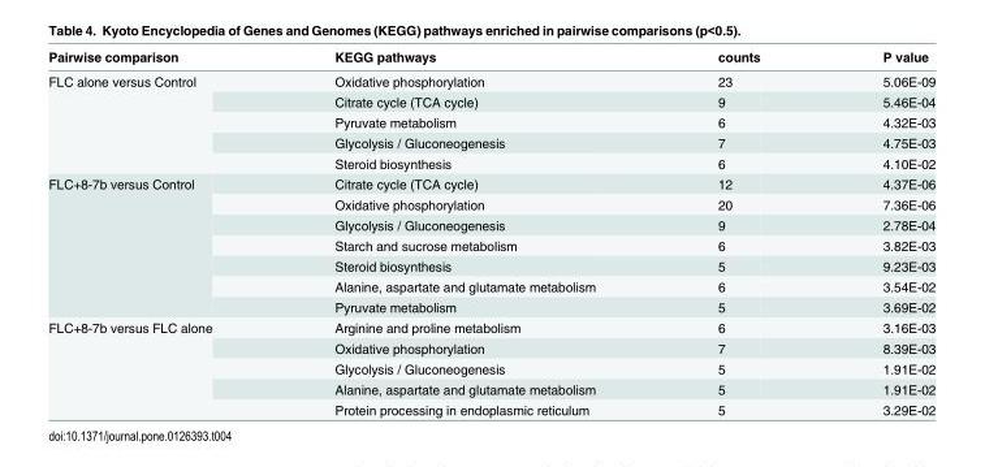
<table><thead><tr><td>Pairwise comparison</td><td>KEGG pathways</td><td>counts</td><td>P value</td></tr></thead><tbody><tr><td rowspan="5">FLC alone versus Control</td><td>Oxidative phosphorylation</td><td>23</td><td>5.06E-09</td></tr><tr><td>Citrate cycle (TCA cycle)</td><td>9</td><td>5.46E-04</td></tr><tr><td>Pyruvate metabolism</td><td>6</td><td>4.32E-03</td></tr><tr><td>Glycolysis / Gluconeogenesis</td><td>7</td><td>4.75E-03</td></tr><tr><td>Steroid biosynthesis</td><td>6</td><td>4.10E-02</td></tr><tr><td rowspan="7">FLC+8-7b versus Control</td><td>Citrate cycle (TCA cycle)</td><td>12</td><td>4.37E-06</td></tr><tr><td>Oxidative phosphorylation</td><td>20</td><td>7.36E-06</td></tr><tr><td>Glycolysis / Gluconeogenesis</td><td>9</td><td>2.78E-04</td></tr><tr><td>Starch and sucrose metabolism</td><td>6</td><td>3.82E-03</td></tr><tr><td>Steroid biosynthesis</td><td>5</td><td>9.23E-03</td></tr><tr><td>Alanine, aspartate and glutamate metabolism</td><td>6</td><td>3.54E-02</td></tr><tr><td>Pyruvate metabolism</td><td>5</td><td>3.69E-02</td></tr><tr><td rowspan="5">FLC+8-7b versus FLC alone</td><td>Arginine and proline metabolism</td><td>6</td><td>3.16E-03</td></tr><tr><td>Oxidative phosphorylation</td><td>7</td><td>8.39E-03</td></tr><tr><td>Glycolysis / Gluconeogenesis</td><td>5</td><td>1.91E-02</td></tr><tr><td>Alanine, aspartate and glutamate metabolism</td><td>5</td><td>1.91E-02</td></tr><tr><td>Protein processing in endoplasmic reticulum</td><td>5</td><td>3.29E-02</td></tr></tbody></table>